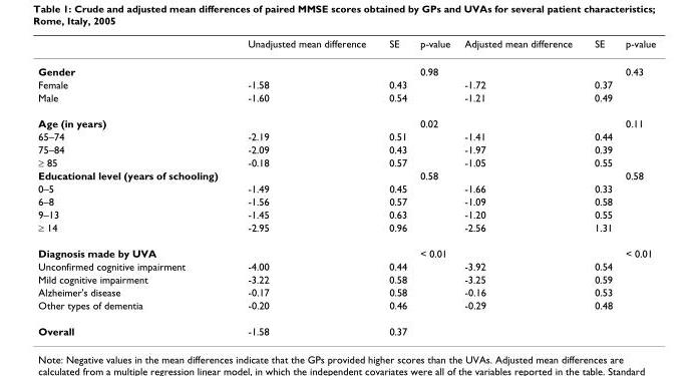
<table><thead><tr><td></td><td>Unadjusted mean difference</td><td>SE</td><td>p-value</td><td>Adjusted mean difference</td><td>SE</td><td>p-value</td></tr></thead><tbody><tr><td>Gender</td><td></td><td></td><td>0.98</td><td></td><td></td><td>0.43</td></tr><tr><td>Female</td><td>-1.58</td><td>0.43</td><td></td><td>-1.72</td><td>0.37</td><td></td></tr><tr><td>Male</td><td>-1.60</td><td>0.54</td><td></td><td>-1.21</td><td>0.49</td><td></td></tr><tr><td>Age (in years)</td><td></td><td></td><td>0.02</td><td></td><td></td><td>0.11</td></tr><tr><td>65–74</td><td>-2.19</td><td>0.51</td><td></td><td>-1.41</td><td>0.44</td><td></td></tr><tr><td>75–84</td><td>-2.09</td><td>0.43</td><td></td><td>-1.97</td><td>0.39</td><td></td></tr><tr><td>≥ 85</td><td>-0.18</td><td>0.57</td><td></td><td>-1.05</td><td>0.55</td><td></td></tr><tr><td>Educational level (years of schooling)</td><td></td><td></td><td>0.58</td><td></td><td></td><td>0.58</td></tr><tr><td>0–5</td><td>-1.49</td><td>0.45</td><td></td><td>-1.66</td><td>0.33</td><td></td></tr><tr><td>6–8</td><td>-1.56</td><td>0.57</td><td></td><td>-1.09</td><td>0.58</td><td></td></tr><tr><td>9–13</td><td>-1.45</td><td>0.63</td><td></td><td>-1.20</td><td>0.55</td><td></td></tr><tr><td>≥ 14</td><td>-2.95</td><td>0.96</td><td></td><td>-2.56</td><td>1.31</td><td></td></tr><tr><td>Diagnosis made by UVA</td><td></td><td></td><td>&lt; 0.01</td><td></td><td></td><td>&lt; 0.01</td></tr><tr><td>Unconfirmed cognitive impairment</td><td>-4.00</td><td>0.44</td><td></td><td>-3.92</td><td>0.54</td><td></td></tr><tr><td>Mild cognitive impairment</td><td>-3.22</td><td>0.58</td><td></td><td>-3.25</td><td>0.59</td><td></td></tr><tr><td>Alzheimer&#x27;s disease</td><td>-0.17</td><td>0.58</td><td></td><td>-0.16</td><td>0.53</td><td></td></tr><tr><td>Other types of dementia</td><td>-0.20</td><td>0.46</td><td></td><td>-0.29</td><td>0.48</td><td></td></tr><tr><td>Overall</td><td>-1.58</td><td>0.37</td><td></td><td></td><td></td><td></td></tr></tbody></table>